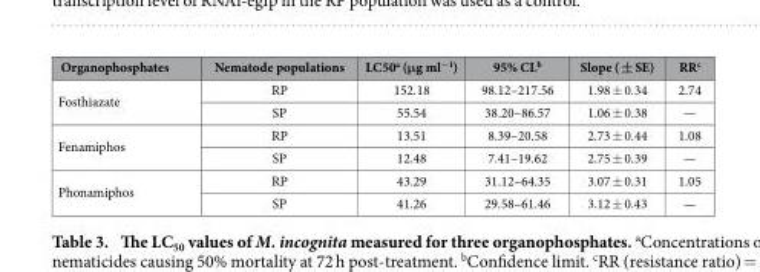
<table><thead><tr><td>Organophosphates</td><td>Nematode populations</td><td>LC50<sup>a</sup> (μg ml<sup>−1</sup>)</td><td>95% CL<sup>b</sup></td><td>Slope ( ± SE)</td><td>RR<sup>c</sup></td></tr></thead><tbody><tr><td rowspan="2">Fosthiazate</td><td>RP</td><td>152.18</td><td>98.12–217.56</td><td>1.98 ± 0.34</td><td>2.74</td></tr><tr><td>SP</td><td>55.54</td><td>38.20–86.57</td><td>1.06 ± 0.38</td><td>—</td></tr><tr><td rowspan="2">Fenamiphos</td><td>RP</td><td>13.51</td><td>8.39–20.58</td><td>2.73 ± 0.44</td><td>1.08</td></tr><tr><td>SP</td><td>12.48</td><td>7.41–19.62</td><td>2.75 ± 0.39</td><td>—</td></tr><tr><td rowspan="2">Phonamiphos</td><td>RP</td><td>43.29</td><td>31.12–64.35</td><td>3.07 ± 0.31</td><td>1.05</td></tr><tr><td>SP</td><td>41.26</td><td>29.58–61.46</td><td>3.12 ± 0.43</td><td>—</td></tr></tbody></table>